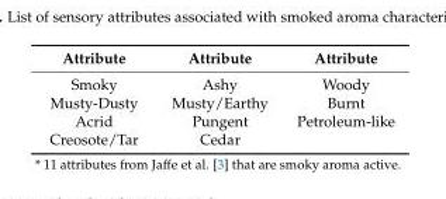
<table><thead><tr><td>Attribute</td><td>Attribute</td><td>Attribute</td></tr></thead><tbody><tr><td>Smoky</td><td>Ashy</td><td>Woody</td></tr><tr><td>Musty-Dusty</td><td>Musty/Earthy</td><td>Burnt</td></tr><tr><td>Acrid</td><td>Pungent</td><td>Petroleum-like</td></tr><tr><td>Creosote/Tar</td><td>Cedar</td><td></td></tr></tbody></table>